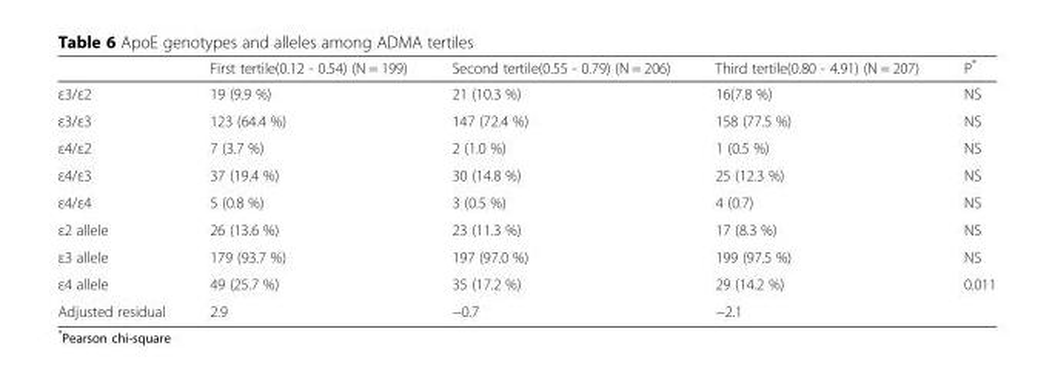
<table><thead><tr><td></td><td>First tertile(0.12 - 0.54) (N = 199)</td><td>Second tertile(0.55 - 0.79) (N = 206)</td><td>Third tertile(0.80 - 4.91) (N = 207)</td><td>P*</td></tr></thead><tbody><tr><td>ε3/ε2</td><td>19 (9.9 %)</td><td>21 (10.3 %)</td><td>16(7.8 %)</td><td>NS</td></tr><tr><td>ε3/ε3</td><td>123 (64.4 %)</td><td>147 (72.4 %)</td><td>158 (77.5 %)</td><td>NS</td></tr><tr><td>ε4/ε2</td><td>7 (3.7 %)</td><td>2 (1.0 %)</td><td>1 (0.5 %)</td><td>NS</td></tr><tr><td>ε4/ε3</td><td>37 (19.4 %)</td><td>30 (14.8 %)</td><td>25 (12.3 %)</td><td>NS</td></tr><tr><td>ε4/ε4</td><td>5 (0.8 %)</td><td>3 (0.5 %)</td><td>4 (0.7)</td><td>NS</td></tr><tr><td>ε2 allele</td><td>26 (13.6 %)</td><td>23 (11.3 %)</td><td>17 (8.3 %)</td><td>NS</td></tr><tr><td>ε3 allele</td><td>179 (93.7 %)</td><td>197 (97.0 %)</td><td>199 (97.5 %)</td><td>NS</td></tr><tr><td>ε4 allele</td><td>49 (25.7 %)</td><td>35 (17.2 %)</td><td>29 (14.2 %)</td><td>0.011</td></tr><tr><td>Adjusted residual</td><td>2.9</td><td>−0.7</td><td>−2.1</td><td></td></tr></tbody></table>